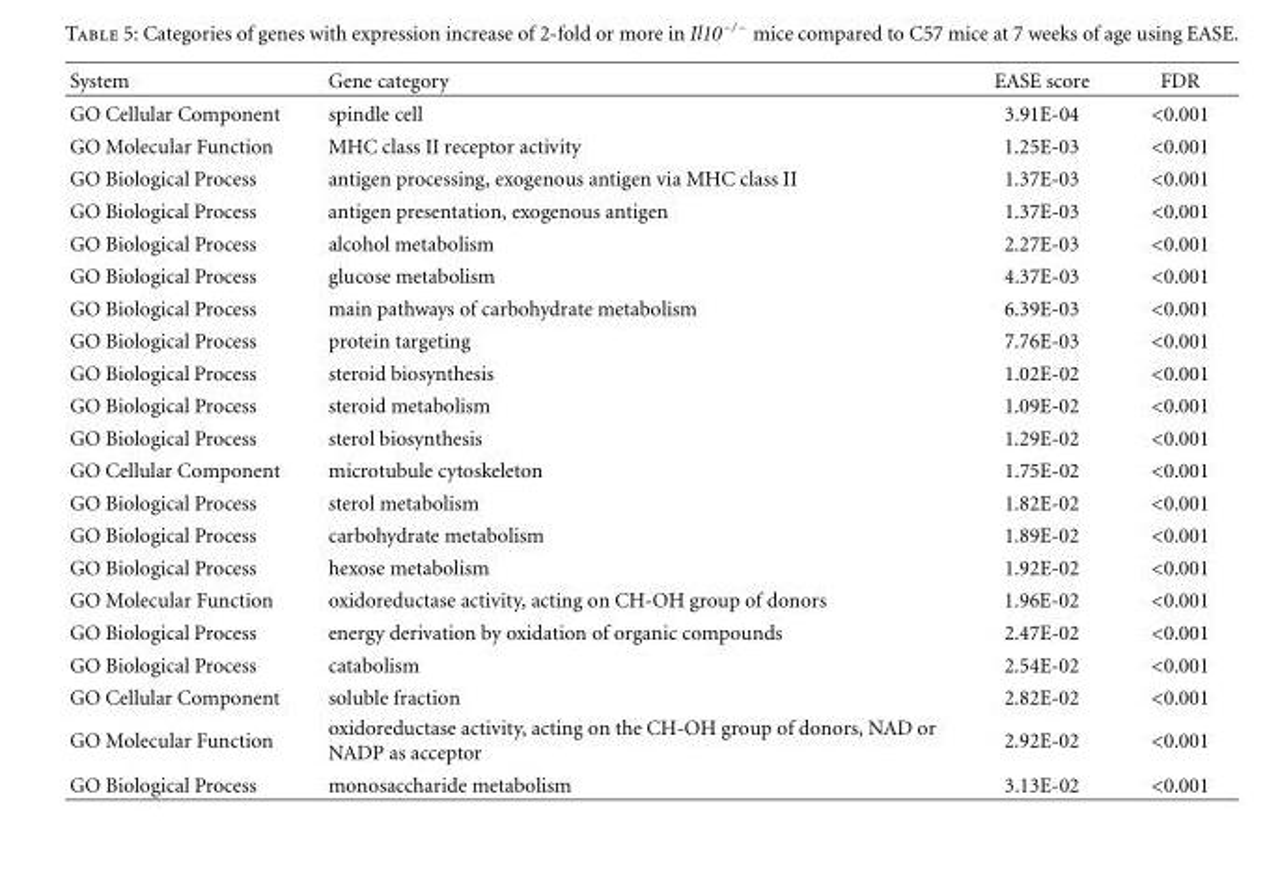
<table><thead><tr><td>System</td><td>Gene category</td><td>EASE score</td><td>FDR</td></tr></thead><tbody><tr><td>GO Cellular Component</td><td>spindle cell</td><td>3.91E-04</td><td>&lt;0.001</td></tr><tr><td>GO Molecular Function</td><td>MHC class II receptor activity</td><td>1.25E-03</td><td>&lt;0.001</td></tr><tr><td>GO Biological Process</td><td>antigen processing, exogenous antigen via MHC class II</td><td>1.37E-03</td><td>&lt;0.001</td></tr><tr><td>GO Biological Process</td><td>antigen presentation, exogenous antigen</td><td>1.37E-03</td><td>&lt;0.001</td></tr><tr><td>GO Biological Process</td><td>alcohol metabolism</td><td>2.27E-03</td><td>&lt;0.001</td></tr><tr><td>GO Biological Process</td><td>glucose metabolism</td><td>4.37E-03</td><td>&lt;0.001</td></tr><tr><td>GO Biological Process</td><td>main pathways of carbohydrate metabolism</td><td>6.39E-03</td><td>&lt;0.001</td></tr><tr><td>GO Biological Process</td><td>protein targeting</td><td>7.76E-03</td><td>&lt;0.001</td></tr><tr><td>GO Biological Process</td><td>steroid biosynthesis</td><td>1.02E-02</td><td>&lt;0.001</td></tr><tr><td>GO Biological Process</td><td>steroid metabolism</td><td>1.09E-02</td><td>&lt;0.001</td></tr><tr><td>GO Biological Process</td><td>sterol biosynthesis</td><td>1.29E-02</td><td>&lt;0.001</td></tr><tr><td>GO Cellular Component</td><td>microtubule cytoskeleton</td><td>1.75E-02</td><td>&lt;0.001</td></tr><tr><td>GO Biological Process</td><td>sterol metabolism</td><td>1.82E-02</td><td>&lt;0.001</td></tr><tr><td>GO Biological Process</td><td>carbohydrate metabolism</td><td>1.89E-02</td><td>&lt;0.001</td></tr><tr><td>GO Biological Process</td><td>hexose metabolism</td><td>1.92E-02</td><td>&lt;0.001</td></tr><tr><td>GO Molecular Function</td><td>oxidoreductase activity, acting on CH-OH group of donors</td><td>1.96E-02</td><td>&lt;0.001</td></tr><tr><td>GO Biological Process</td><td>energy derivation by oxidation of organic compounds</td><td>2.47E-02</td><td>&lt;0.001</td></tr><tr><td>GO Biological Process</td><td>catabolism</td><td>2.54E-02</td><td>&lt;0.001</td></tr><tr><td>GO Cellular Component</td><td>soluble fraction</td><td>2.82E-02</td><td>&lt;0.001</td></tr><tr><td>GO Molecular Function</td><td>oxidoreductase activity, acting on the CH-OH group of donors, NAD or NADP as acceptor</td><td>2.92E-02</td><td>&lt;0.001</td></tr><tr><td>GO Biological Process</td><td>monosaccharide metabolism</td><td>3.13E-02</td><td>&lt;0.001</td></tr></tbody></table>